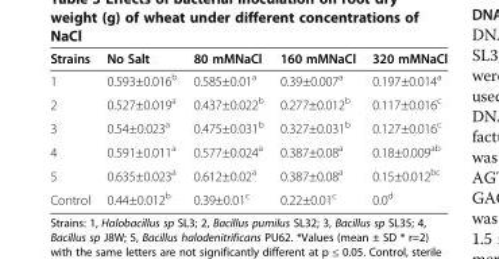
<table><thead><tr><td>Strains</td><td>No Salt</td><td>80 mMNaCl</td><td>160 mMNaCl</td><td>320 mMNaCl</td></tr></thead><tbody><tr><td>1</td><td>0.593±0.016<sup>b</sup></td><td>0.585±0.01<sup>a</sup></td><td>0.39±0.007<sup>a</sup></td><td>0.197±0.014<sup>a</sup></td></tr><tr><td>2</td><td>0.527±0.019<sup>a</sup></td><td>0.437±0.022<sup>b</sup></td><td>0.277±0.012<sup>b</sup></td><td>0.117±0.016<sup>c</sup></td></tr><tr><td>3</td><td>0.54±0.023<sup>a</sup></td><td>0.475±0.031<sup>b</sup></td><td>0.327±0.031<sup>b</sup></td><td>0.127±0.016<sup>c</sup></td></tr><tr><td>4</td><td>0.591±0.011<sup>a</sup></td><td>0.577±0.024<sup>a</sup></td><td>0.387±0.08<sup>a</sup></td><td>0.18±0.009<sup>ab</sup></td></tr><tr><td>5</td><td>0.635±0.023<sup>a</sup></td><td>0.612±0.02<sup>a</sup></td><td>0.387±0.08<sup>a</sup></td><td>0.15±0.012<sup>bc</sup></td></tr><tr><td>Control</td><td>0.44±0.012<sup>b</sup></td><td>0.39±0.01<sup>c</sup></td><td>0.22±0.01<sup>c</sup></td><td>0.0<sup>d</sup></td></tr></tbody></table>